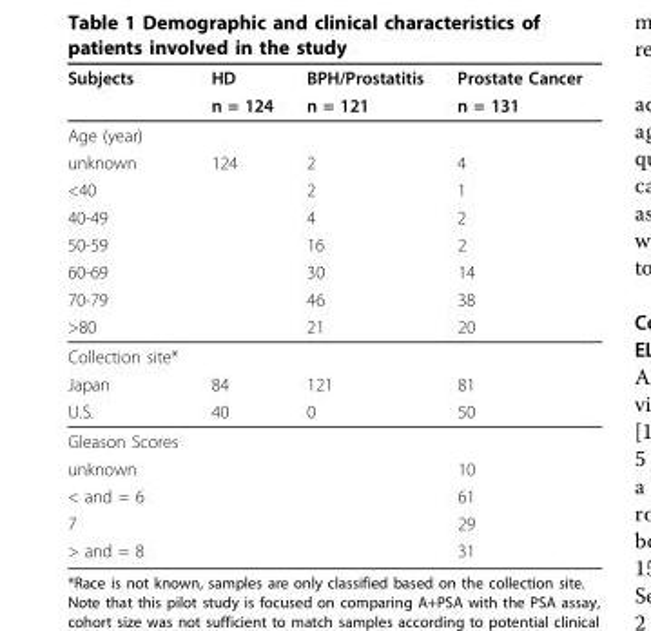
<table><thead><tr><td rowspan="2">Subjects</td><td rowspan="2">HD n = 124</td><td rowspan="2">BPH/Prostatitis n = 121</td><td rowspan="2">Prostate Cancer n = 131</td></tr><tr></tr></thead><tbody><tr><td colspan="4">Age (year)</td></tr><tr><td>unknown</td><td>124</td><td>2</td><td>4</td></tr><tr><td>&lt;40</td><td></td><td>2</td><td>1</td></tr><tr><td>40-49</td><td></td><td>4</td><td>2</td></tr><tr><td>50-59</td><td></td><td>16</td><td>2</td></tr><tr><td>60-69</td><td></td><td>30</td><td>14</td></tr><tr><td>70-79</td><td></td><td>46</td><td>38</td></tr><tr><td>&gt;80</td><td></td><td>21</td><td>20</td></tr><tr><td colspan="4">Collection site*</td></tr><tr><td>Japan</td><td>84</td><td>121</td><td>81</td></tr><tr><td>U.S.</td><td>40</td><td>0</td><td>50</td></tr><tr><td colspan="4">Gleason Scores</td></tr><tr><td>unknown</td><td></td><td></td><td>10</td></tr><tr><td>&lt; and = 6</td><td></td><td></td><td>61</td></tr><tr><td>7</td><td></td><td></td><td>29</td></tr><tr><td>&gt; and = 8</td><td></td><td></td><td>31</td></tr></tbody></table>